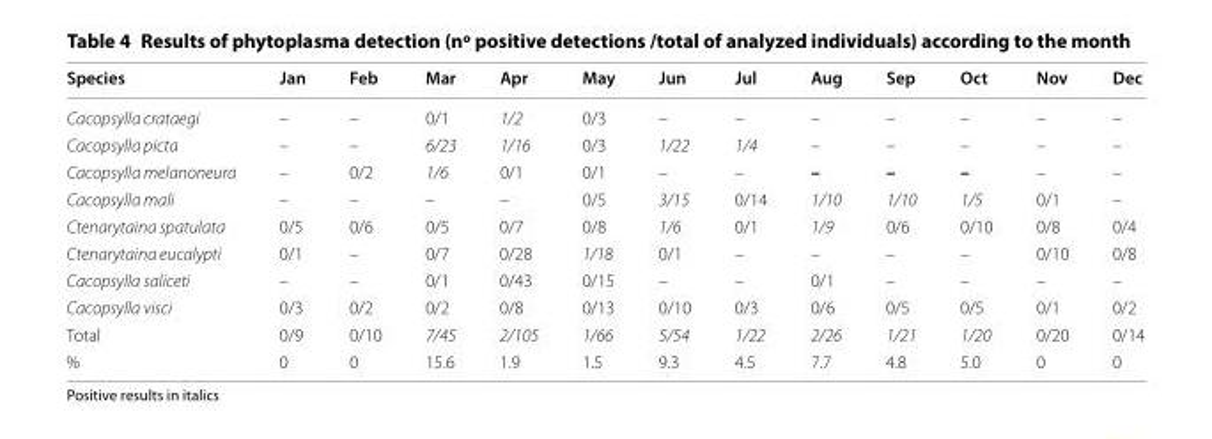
<table><thead><tr><td>Species</td><td>Jan</td><td>Feb</td><td>Mar</td><td>Apr</td><td>May</td><td>Jun</td><td>Jul</td><td>Aug</td><td>Sep</td><td>Oct</td><td>Nov</td><td>Dec</td></tr></thead><tbody><tr><td>Cacopsylla crataegi</td><td>–</td><td>–</td><td>0/1</td><td>1/2</td><td>0/3</td><td>–</td><td>–</td><td>–</td><td>–</td><td>–</td><td>–</td><td>–</td></tr><tr><td>Cacopsylla picta</td><td>–</td><td>–</td><td>6/23</td><td>1/16</td><td>0/3</td><td>1/22</td><td>1/4</td><td>–</td><td>–</td><td>–</td><td>–</td><td>–</td></tr><tr><td>Cacopsylla melanoneura</td><td>–</td><td>0/2</td><td>1/6</td><td>0/1</td><td>0/1</td><td>–</td><td>–</td><td>–</td><td>–</td><td>–</td><td>–</td><td>–</td></tr><tr><td>Cacopsylla mali</td><td>–</td><td>–</td><td>–</td><td>–</td><td>0/5</td><td>3/15</td><td>0/14</td><td>1/10</td><td>1/10</td><td>1/5</td><td>0/1</td><td>–</td></tr><tr><td>Ctenarytaina spatulata</td><td>0/5</td><td>0/6</td><td>0/5</td><td>0/7</td><td>0/8</td><td>1/6</td><td>0/1</td><td>1/9</td><td>0/6</td><td>0/10</td><td>0/8</td><td>0/4</td></tr><tr><td>Ctenarytaina eucalypti</td><td>0/1</td><td>–</td><td>0/7</td><td>0/28</td><td>1/18</td><td>0/1</td><td>–</td><td>–</td><td>–</td><td>–</td><td>0/10</td><td>0/8</td></tr><tr><td>Cacopsylla saliceti</td><td>–</td><td>–</td><td>0/1</td><td>0/43</td><td>0/15</td><td>–</td><td>–</td><td>0/1</td><td>–</td><td>–</td><td>–</td><td>–</td></tr><tr><td>Cacopsylla visci</td><td>0/3</td><td>0/2</td><td>0/2</td><td>0/8</td><td>0/13</td><td>0/10</td><td>0/3</td><td>0/6</td><td>0/5</td><td>0/5</td><td>0/1</td><td>0/2</td></tr><tr><td>Total</td><td>0/9</td><td>0/10</td><td>7/45</td><td>2/105</td><td>1/66</td><td>5/54</td><td>1/22</td><td>2/26</td><td>1/21</td><td>1/20</td><td>0/20</td><td>0/14</td></tr><tr><td>%</td><td>0</td><td>0</td><td>15.6</td><td>1.9</td><td>1.5</td><td>9.3</td><td>4.5</td><td>7.7</td><td>4.8</td><td>5.0</td><td>0</td><td>0</td></tr></tbody></table>